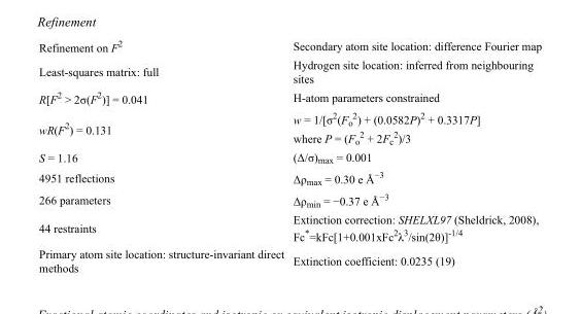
<table><tbody><tr><td>Refinement on F<sup>2</sup></td><td>Secondary atom site location: difference Fourier map</td></tr><tr><td>Least-squares matrix: full</td><td>Hydrogen site location: inferred from neighbouring sites</td></tr><tr><td>R[F<sup>2</sup> &gt; 2σ(F<sup>2</sup>)] = 0.041</td><td>H-atom parameters constrained</td></tr><tr><td>wR(F<sup>2</sup>) = 0.131</td><td>w = 1/[σ<sup>2</sup>(F<sub>o</sub> <sup>2</sup>) + (0.0582P)<sup>2</sup> + 0.3317P] where P = (F<sub>o</sub> <sup>2</sup> + 2F<sub>c</sub> <sup>2</sup>)/3</td></tr><tr><td>S = 1.16</td><td>(Δ/σ)<sub>max</sub> = 0.001</td></tr><tr><td>4951 reflections</td><td>Δρ<sub>max</sub> = 0.30 e Å<sup>−3</sup></td></tr><tr><td>266 parameters</td><td>Δρ<sub>min</sub> = −0.37 e Å<sup>−3</sup></td></tr><tr><td>44 restraints</td><td>Extinction correction: SHELXL97 (Sheldrick, 2008), Fc*=kFc[1+0.001xFc<sup>2</sup>λ<sup>3</sup>/sin(2θ)]<sup>-1/4</sup></td></tr><tr><td>Primary atom site location: structure-invariant direct methods</td><td>Extinction coefficient: 0.0235 (19)</td></tr></tbody></table>